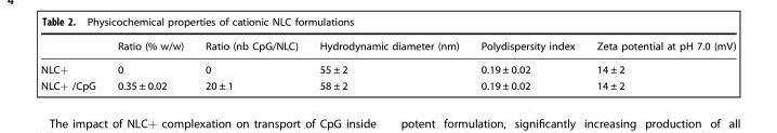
<table><thead><tr><td></td><td>Ratio (% w/w)</td><td>Ratio (nb CpG/NLC)</td><td>Hydrodynamic diameter (nm)</td><td>Polydispersity index</td><td>Zeta potential at pH 7.0 (mV)</td></tr></thead><tbody><tr><td>NLC+</td><td>0</td><td>0</td><td>55 ± 2</td><td>0.19 ± 0.02</td><td>14 ± 2</td></tr><tr><td>NLC+ /CpG</td><td>0.35 ± 0.02</td><td>20 ± 1</td><td>58 ± 2</td><td>0.19 ± 0.02</td><td>14 ± 2</td></tr></tbody></table>